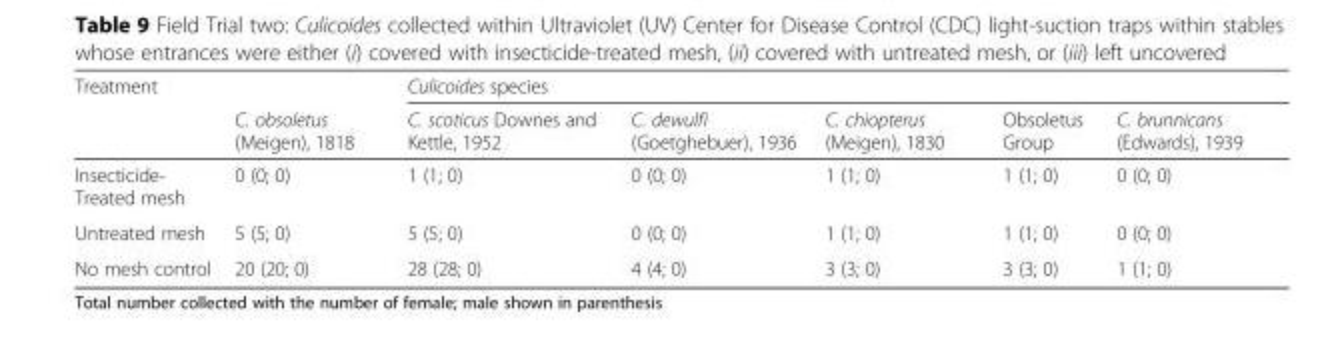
<table><thead><tr><td rowspan="2">Treatment</td><td rowspan="2">C. obsoletus (Meigen), 1818</td><td colspan="5">Culicoides species</td></tr><tr><td>C. scoticus Downes and Kettle, 1952</td><td>C. dewulfi (Goetghebuer), 1936</td><td>C. chiopterus (Meigen), 1830</td><td>Obsoletus Group</td><td>C. brunnicans (Edwards), 1939</td></tr></thead><tbody><tr><td>Insecticide- Treated mesh</td><td>0 (0; 0)</td><td>1 (1; 0)</td><td>0 (0; 0)</td><td>1 (1; 0)</td><td>1 (1; 0)</td><td>0 (0; 0)</td></tr><tr><td>Untreated mesh</td><td>5 (5; 0)</td><td>5 (5; 0)</td><td>0 (0; 0)</td><td>1 (1; 0)</td><td>1 (1; 0)</td><td>0 (0; 0)</td></tr><tr><td>No mesh control</td><td>20 (20; 0)</td><td>28 (28; 0)</td><td>4 (4; 0)</td><td>3 (3; 0)</td><td>3 (3; 0)</td><td>1 (1; 0)</td></tr></tbody></table>